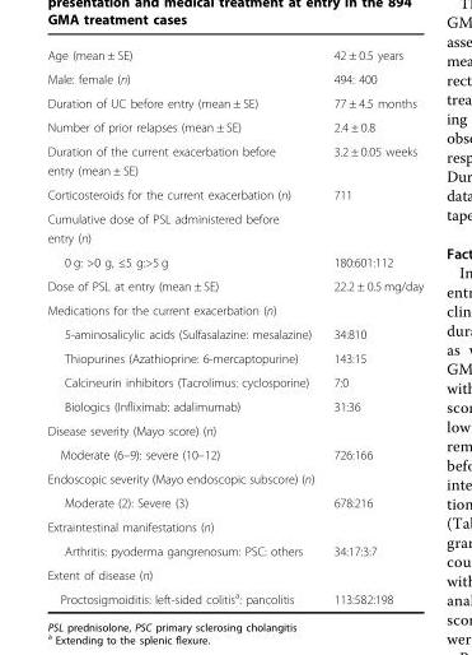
<table><tbody><tr><td>Age (mean ± SE)</td><td>42 ± 0.5 years</td></tr><tr><td>Male: female (n)</td><td>494: 400</td></tr><tr><td>Duration of UC before entry (mean ± SE)</td><td>77 ± 4.5 months</td></tr><tr><td>Number of prior relapses (mean ± SE)</td><td>2.4 ± 0.8</td></tr><tr><td>Duration of the current exacerbation before entry (mean ± SE)</td><td>3.2 ± 0.05 weeks</td></tr><tr><td>Corticosteroids for the current exacerbation (n)</td><td>711</td></tr><tr><td colspan="2">Cumulative dose of PSL administered before entry (n)</td></tr><tr><td>0 g: &gt;0 g, ≤5 g:&gt;5 g</td><td>180:601:112</td></tr><tr><td>Dose of PSL at entry (mean ± SE)</td><td>22.2 ± 0.5 mg/day</td></tr><tr><td colspan="2">Medications for the current exacerbation (n)</td></tr><tr><td>5-aminosalicylic acids (Sulfasalazine: mesalazine)</td><td>34:810</td></tr><tr><td>Thiopurines (Azathioprine: 6-mercaptopurine)</td><td>143:15</td></tr><tr><td>Calcineurin inhibitors (Tacrolimus: cyclosporine)</td><td>7:0</td></tr><tr><td>Biologics (Infliximab: adalimumab)</td><td>31:36</td></tr><tr><td colspan="2">Disease severity (Mayo score) (n)</td></tr><tr><td>Moderate (6–9): severe (10–12)</td><td>726:166</td></tr><tr><td colspan="2">Endoscopic severity (Mayo endoscopic subscore) (n)</td></tr><tr><td>Moderate (2): Severe (3)</td><td>678:216</td></tr><tr><td colspan="2">Extraintestinal manifestations (n)</td></tr><tr><td>Arthritis: pyoderma gangrenosum: PSC: others</td><td>34:17:3:7</td></tr><tr><td colspan="2">Extent of disease (n)</td></tr><tr><td>Proctosigmoiditis: left-sided colitis<sup>a</sup>: pancolitis</td><td>113:582:198</td></tr></tbody></table>